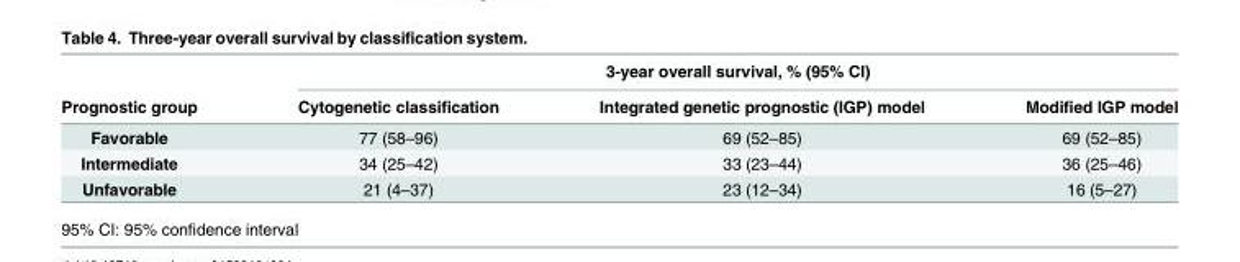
<table><thead><tr><td rowspan="2">Prognostic group</td><td colspan="3">3-year overall survival, % (95% CI)</td></tr><tr><td>Cytogenetic classification</td><td>Integrated genetic prognostic (IGP) model</td><td>Modified IGP model</td></tr></thead><tbody><tr><td>Favorable</td><td>77 (58–96)</td><td>69 (52–85)</td><td>69 (52–85)</td></tr><tr><td>Intermediate</td><td>34 (25–42)</td><td>33 (23–44)</td><td>36 (25–46)</td></tr><tr><td>Unfavorable</td><td>21 (4–37)</td><td>23 (12–34)</td><td>16 (5–27)</td></tr></tbody></table>